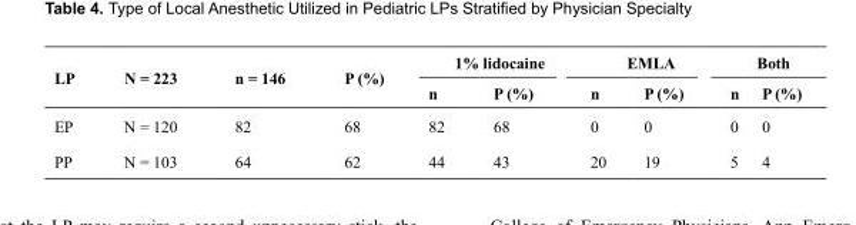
<table><thead><tr><td rowspan="2">LP</td><td rowspan="2">N = 223</td><td rowspan="2">n = 146</td><td rowspan="2">P (%)</td><td colspan="2">1% lidocaine</td><td colspan="2">EMLA</td><td colspan="2">Both</td></tr><tr><td>n</td><td>P (%)</td><td>n</td><td>P (%)</td><td>n</td><td>P (%)</td></tr></thead><tbody><tr><td>EP</td><td>N = 120</td><td>82</td><td>68</td><td>82</td><td>68</td><td>0</td><td>0</td><td>0</td><td>0</td></tr><tr><td>PP</td><td>N = 103</td><td>64</td><td>62</td><td>44</td><td>43</td><td>20</td><td>19</td><td>5</td><td>4</td></tr></tbody></table>